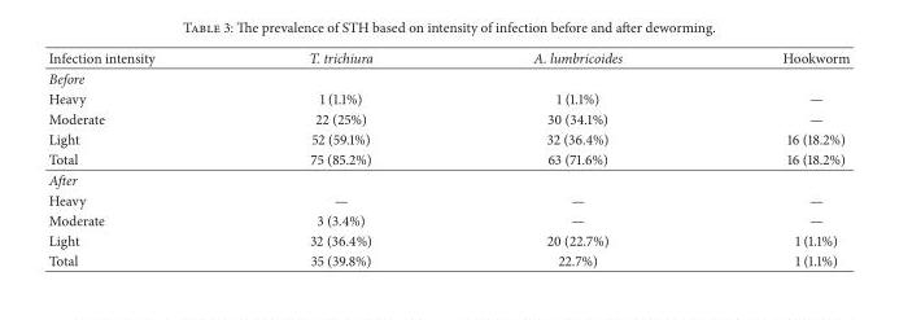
<table><thead><tr><td>Infection intensity</td><td>T. trichiura</td><td>A. lumbricoides</td><td>Hookworm</td></tr></thead><tbody><tr><td colspan="4">Before</td></tr><tr><td>Heavy</td><td>1 (1.1%)</td><td>1 (1.1%)</td><td>—</td></tr><tr><td>Moderate</td><td>22 (25%)</td><td>30 (34.1%)</td><td>—</td></tr><tr><td>Light</td><td>52 (59.1%)</td><td>32 (36.4%)</td><td>16 (18.2%)</td></tr><tr><td>Total</td><td>75 (85.2%)</td><td>63 (71.6%)</td><td>16 (18.2%)</td></tr><tr><td colspan="4">After</td></tr><tr><td>Heavy</td><td>—</td><td>—</td><td>—</td></tr><tr><td>Moderate</td><td>3 (3.4%)</td><td>—</td><td>—</td></tr><tr><td>Light</td><td>32 (36.4%)</td><td>20 (22.7%)</td><td>1 (1.1%)</td></tr><tr><td>Total</td><td>35 (39.8%)</td><td>22.7%)</td><td>1 (1.1%)</td></tr></tbody></table>